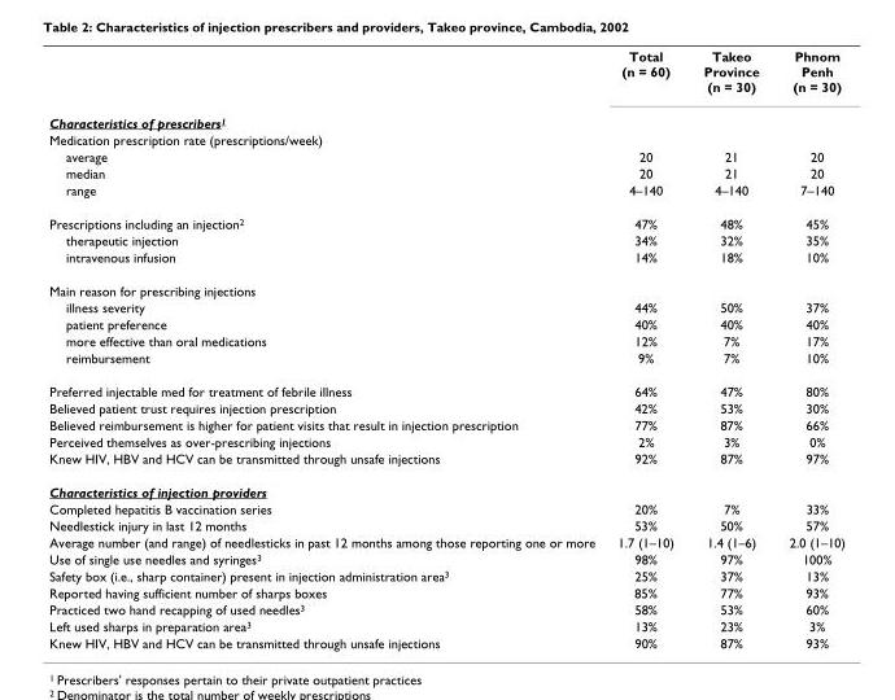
<table><thead><tr><td></td><td>Total (n = 60)</td><td>Takeo Province (n = 30)</td><td>Phnom Penh (n = 30)</td></tr></thead><tbody><tr><td colspan="4">Characteristics of prescribers<sup>1</sup></td></tr><tr><td colspan="4">Medication prescription rate (prescriptions/week)</td></tr><tr><td>average</td><td>20</td><td>21</td><td>20</td></tr><tr><td>median</td><td>20</td><td>21</td><td>20</td></tr><tr><td>range</td><td>4–140</td><td>4–140</td><td>7–140</td></tr><tr><td>Prescriptions including an injection<sup>2</sup></td><td>47%</td><td>48%</td><td>45%</td></tr><tr><td>therapeutic injection</td><td>34%</td><td>32%</td><td>35%</td></tr><tr><td>intravenous infusion</td><td>14%</td><td>18%</td><td>10%</td></tr><tr><td colspan="4">Main reason for prescribing injections</td></tr><tr><td>illness severity</td><td>44%</td><td>50%</td><td>37%</td></tr><tr><td>patient preference</td><td>40%</td><td>40%</td><td>40%</td></tr><tr><td>more effective than oral medications</td><td>12%</td><td>7%</td><td>17%</td></tr><tr><td>reimbursement</td><td>9%</td><td>7%</td><td>10%</td></tr><tr><td>Preferred injectable med for treatment of febrile illness</td><td>64%</td><td>47%</td><td>80%</td></tr><tr><td>Believed patient trust requires injection prescription</td><td>42%</td><td>53%</td><td>30%</td></tr><tr><td>Believed reimbursement is higher for patient visits that result in injection prescription</td><td>77%</td><td>87%</td><td>66%</td></tr><tr><td>Perceived themselves as over-prescribing injections</td><td>2%</td><td>3%</td><td>0%</td></tr><tr><td>Knew HIV, HBV and HCV can be transmitted through unsafe injections</td><td>92%</td><td>87%</td><td>97%</td></tr><tr><td colspan="4">Characteristics of injection providers</td></tr><tr><td>Completed hepatitis B vaccination series</td><td>20%</td><td>7%</td><td>33%</td></tr><tr><td>Needlestick injury in last 12 months</td><td>53%</td><td>50%</td><td>57%</td></tr><tr><td>Average number (and range) of needlesticks in past 12 months among those reporting one or more</td><td>1.7 (1–10)</td><td>1.4 (1–6)</td><td>2.0 (1–10)</td></tr><tr><td>Use of single use needles and syringes<sup>3</sup></td><td>98%</td><td>97%</td><td>100%</td></tr><tr><td>Safety box (i.e., sharp container) present in injection administration area<sup>3</sup></td><td>25%</td><td>37%</td><td>13%</td></tr><tr><td>Reported having sufficient number of sharps boxes</td><td>85%</td><td>77%</td><td>93%</td></tr><tr><td>Practiced two hand recapping of used needles<sup>3</sup></td><td>58%</td><td>53%</td><td>60%</td></tr><tr><td>Left used sharps in preparation area<sup>3</sup></td><td>13%</td><td>23%</td><td>3%</td></tr><tr><td>Knew HIV, HBV and HCV can be transmitted through unsafe injections</td><td>90%</td><td>87%</td><td>93%</td></tr></tbody></table>